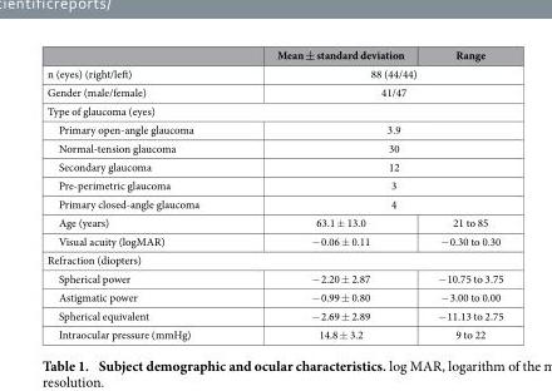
<table><thead><tr><td></td><td>Mean ± standard deviation</td><td>Range</td></tr></thead><tbody><tr><td>n (eyes) (right/left)</td><td colspan="2">88 (44/44)</td></tr><tr><td>Gender (male/female)</td><td colspan="2">41/47</td></tr><tr><td colspan="3">Type of glaucoma (eyes)</td></tr><tr><td>Primary open-angle glaucoma</td><td colspan="2">3.9</td></tr><tr><td>Normal-tension glaucoma</td><td colspan="2">30</td></tr><tr><td>Secondary glaucoma</td><td colspan="2">12</td></tr><tr><td>Pre-perimetric glaucoma</td><td colspan="2">3</td></tr><tr><td>Primary closed-angle glaucoma</td><td colspan="2">4</td></tr><tr><td>Age (years)</td><td>63.1 ± 13.0</td><td>21 to 85</td></tr><tr><td>Visual acuity (logMAR)</td><td>− 0.06 ± 0.11</td><td>− 0.30 to 0.30</td></tr><tr><td colspan="3">Refraction (diopters)</td></tr><tr><td>Spherical power</td><td>− 2.20 ± 2.87</td><td>− 10.75 to 3.75</td></tr><tr><td>Astigmatic power</td><td>− 0.99 ± 0.80</td><td>− 3.00 to 0.00</td></tr><tr><td>Spherical equivalent</td><td>− 2.69 ± 2.89</td><td>− 11.13 to 2.75</td></tr><tr><td>Intraocular pressure (mmHg)</td><td>14.8 ± 3.2</td><td>9 to 22</td></tr></tbody></table>